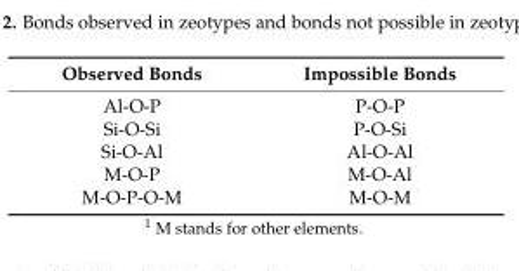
<table><thead><tr><td>Observed Bonds</td><td>Impossible Bonds</td></tr></thead><tbody><tr><td>Al-O-P</td><td>P-O-P</td></tr><tr><td>Si-O-Si</td><td>P-O-Si</td></tr><tr><td>Si-O-Al</td><td>Al-O-Al</td></tr><tr><td>M-O-P</td><td>M-O-Al</td></tr><tr><td>M-O-P-O-M</td><td>M-O-M</td></tr></tbody></table>